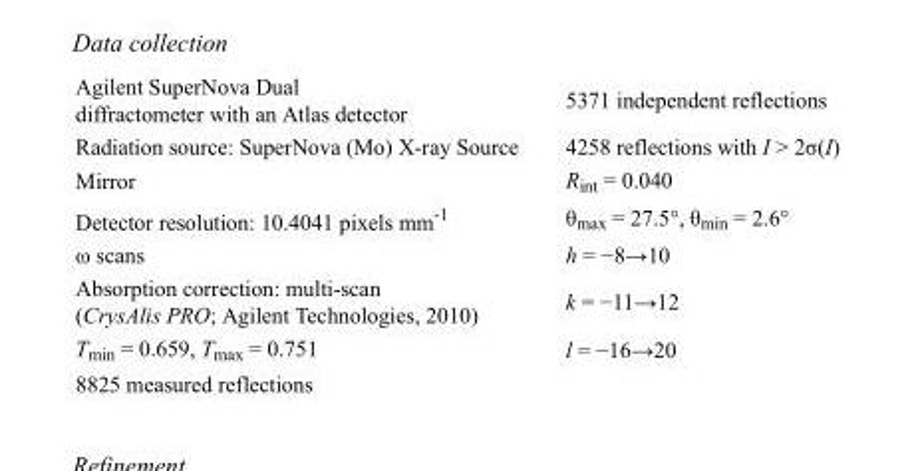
<table><tbody><tr><td>Agilent SuperNova Dual diffractometer with an Atlas detector</td><td>5371 independent reflections</td></tr><tr><td>Radiation source: SuperNova (Mo) X-ray Source</td><td>4258 reflections with I &gt; 2σ(I)</td></tr><tr><td>Mirror</td><td>R<sub>int</sub> = 0.040</td></tr><tr><td>Detector resolution: 10.4041 pixels mm<sup>-1</sup></td><td>θ<sub>max</sub> = 27.5°, θ<sub>min</sub> = 2.6°</td></tr><tr><td>ω scans</td><td>h = −8→10</td></tr><tr><td>Absorption correction: multi-scan (CrysAlis PRO; Agilent Technologies, 2010)</td><td>k = −11→12</td></tr><tr><td>T<sub>min</sub> = 0.659, T<sub>max</sub> = 0.751</td><td>l = −16→20</td></tr><tr><td>8825 measured reflections</td><td></td></tr></tbody></table>